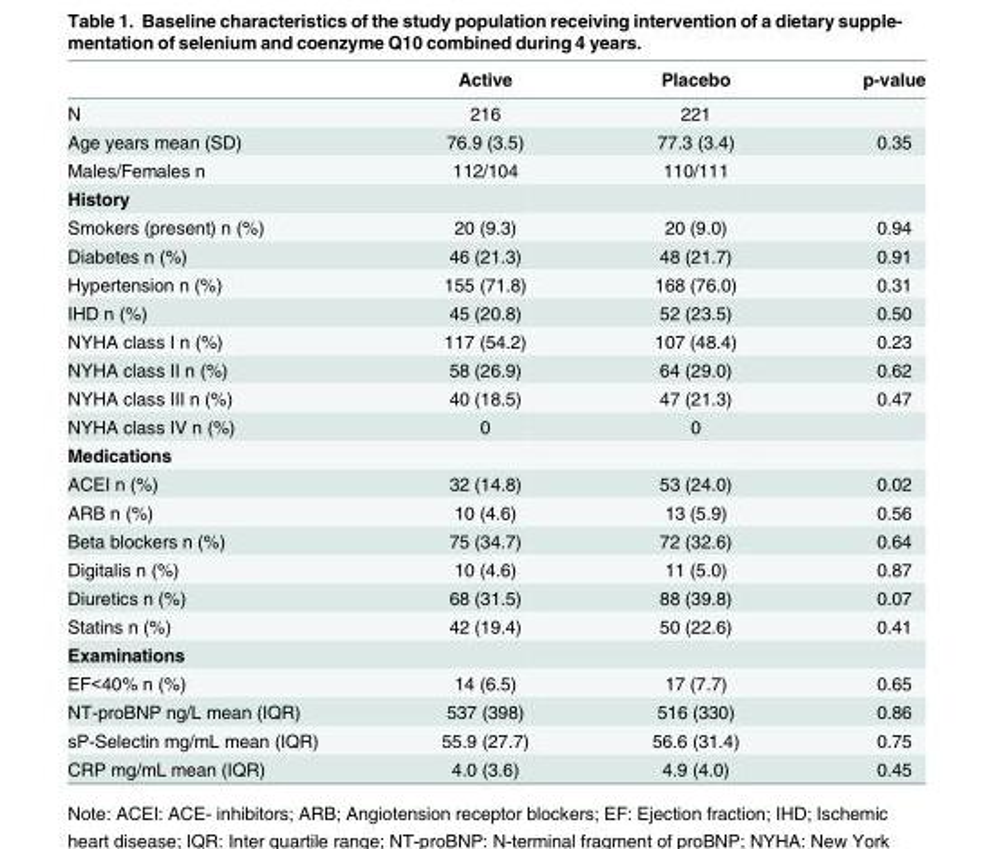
<table><thead><tr><td></td><td>Active</td><td>Placebo</td><td>p-value</td></tr></thead><tbody><tr><td>N</td><td>216</td><td>221</td><td></td></tr><tr><td>Age years mean (SD)</td><td>76.9 (3.5)</td><td>77.3 (3.4)</td><td>0.35</td></tr><tr><td>Males/Females n</td><td>112/104</td><td>110/111</td><td></td></tr><tr><td colspan="4">History</td></tr><tr><td>Smokers (present) n (%)</td><td>20 (9.3)</td><td>20 (9.0)</td><td>0.94</td></tr><tr><td>Diabetes n (%)</td><td>46 (21.3)</td><td>48 (21.7)</td><td>0.91</td></tr><tr><td>Hypertension n (%)</td><td>155 (71.8)</td><td>168 (76.0)</td><td>0.31</td></tr><tr><td>IHD n (%)</td><td>45 (20.8)</td><td>52 (23.5)</td><td>0.50</td></tr><tr><td>NYHA class I n (%)</td><td>117 (54.2)</td><td>107 (48.4)</td><td>0.23</td></tr><tr><td>NYHA class II n (%)</td><td>58 (26.9)</td><td>64 (29.0)</td><td>0.62</td></tr><tr><td>NYHA class III n (%)</td><td>40 (18.5)</td><td>47 (21.3)</td><td>0.47</td></tr><tr><td>NYHA class IV n (%)</td><td>0</td><td>0</td><td></td></tr><tr><td colspan="4">Medications</td></tr><tr><td>ACEI n (%)</td><td>32 (14.8)</td><td>53 (24.0)</td><td>0.02</td></tr><tr><td>ARB n (%)</td><td>10 (4.6)</td><td>13 (5.9)</td><td>0.56</td></tr><tr><td>Beta blockers n (%)</td><td>75 (34.7)</td><td>72 (32.6)</td><td>0.64</td></tr><tr><td>Digitalis n (%)</td><td>10 (4.6)</td><td>11 (5.0)</td><td>0.87</td></tr><tr><td>Diuretics n (%)</td><td>68 (31.5)</td><td>88 (39.8)</td><td>0.07</td></tr><tr><td>Statins n (%)</td><td>42 (19.4)</td><td>50 (22.6)</td><td>0.41</td></tr><tr><td colspan="4">Examinations</td></tr><tr><td>EF&lt;40% n (%)</td><td>14 (6.5)</td><td>17 (7.7)</td><td>0.65</td></tr><tr><td>NT-proBNP ng/L mean (IQR)</td><td>537 (398)</td><td>516 (330)</td><td>0.86</td></tr><tr><td>sP-Selectin mg/mL mean (IQR)</td><td>55.9 (27.7)</td><td>56.6 (31.4)</td><td>0.75</td></tr><tr><td>CRP mg/mL mean (IQR)</td><td>4.0 (3.6)</td><td>4.9 (4.0)</td><td>0.45</td></tr></tbody></table>